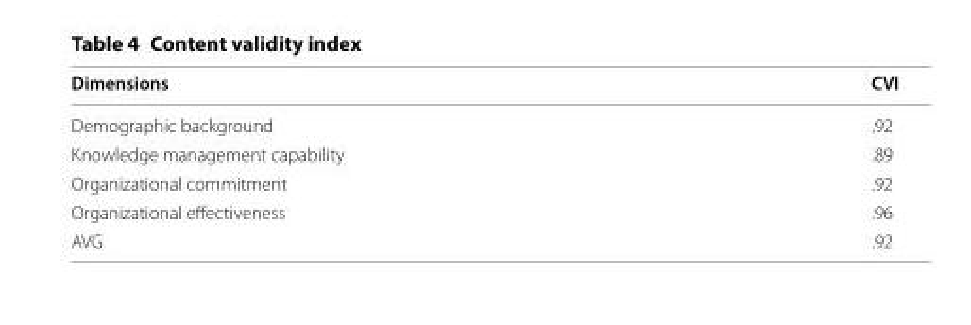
<table><thead><tr><td>Dimensions</td><td>CVI</td></tr></thead><tbody><tr><td>Demographic background</td><td>.92</td></tr><tr><td>Knowledge management capability</td><td>.89</td></tr><tr><td>Organizational commitment</td><td>.92</td></tr><tr><td>Organizational effectiveness</td><td>.96</td></tr><tr><td>AVG</td><td>.92</td></tr></tbody></table>